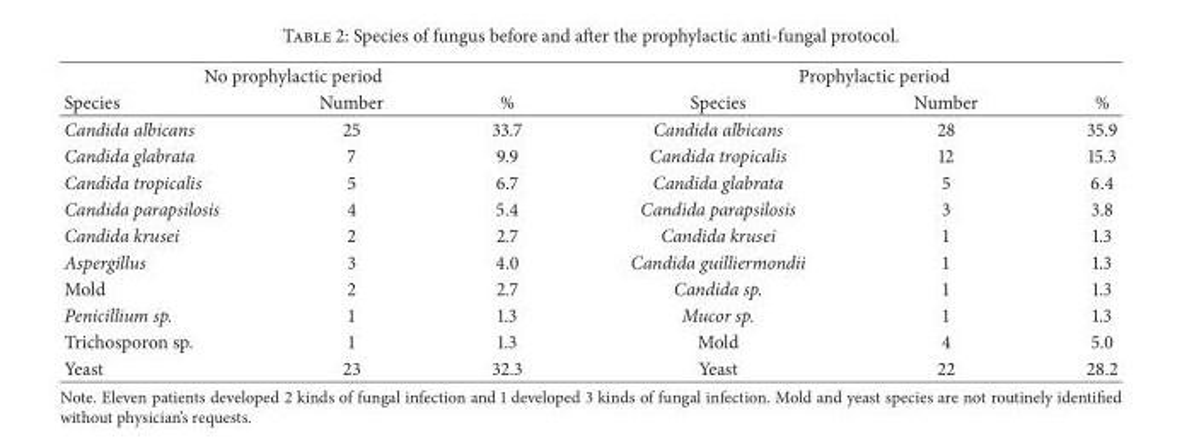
<table><thead><tr><td colspan="3">No prophylactic period</td><td colspan="3">Prophylactic period</td></tr><tr><td>Species</td><td>Number</td><td>%</td><td>Species</td><td>Number</td><td>%</td></tr></thead><tbody><tr><td>Candida albicans</td><td>25</td><td>33.7</td><td>Candida albicans</td><td>28</td><td>35.9</td></tr><tr><td>Candida glabrata</td><td>7</td><td>9.9</td><td>Candida tropicalis</td><td>12</td><td>15.3</td></tr><tr><td>Candida tropicalis</td><td>5</td><td>6.7</td><td>Candida glabrata</td><td>5</td><td>6.4</td></tr><tr><td>Candida parapsilosis</td><td>4</td><td>5.4</td><td>Candida parapsilosis</td><td>3</td><td>3.8</td></tr><tr><td>Candida krusei</td><td>2</td><td>2.7</td><td>Candida krusei</td><td>1</td><td>1.3</td></tr><tr><td>Aspergillus</td><td>3</td><td>4.0</td><td>Candida guilliermondii</td><td>1</td><td>1.3</td></tr><tr><td>Mold</td><td>2</td><td>2.7</td><td>Candida sp.</td><td>1</td><td>1.3</td></tr><tr><td>Penicillium sp.</td><td>1</td><td>1.3</td><td>Mucor sp.</td><td>1</td><td>1.3</td></tr><tr><td>Trichosporon sp.</td><td>1</td><td>1.3</td><td>Mold</td><td>4</td><td>5.0</td></tr><tr><td>Yeast</td><td>23</td><td>32.3</td><td>Yeast</td><td>22</td><td>28.2</td></tr></tbody></table>